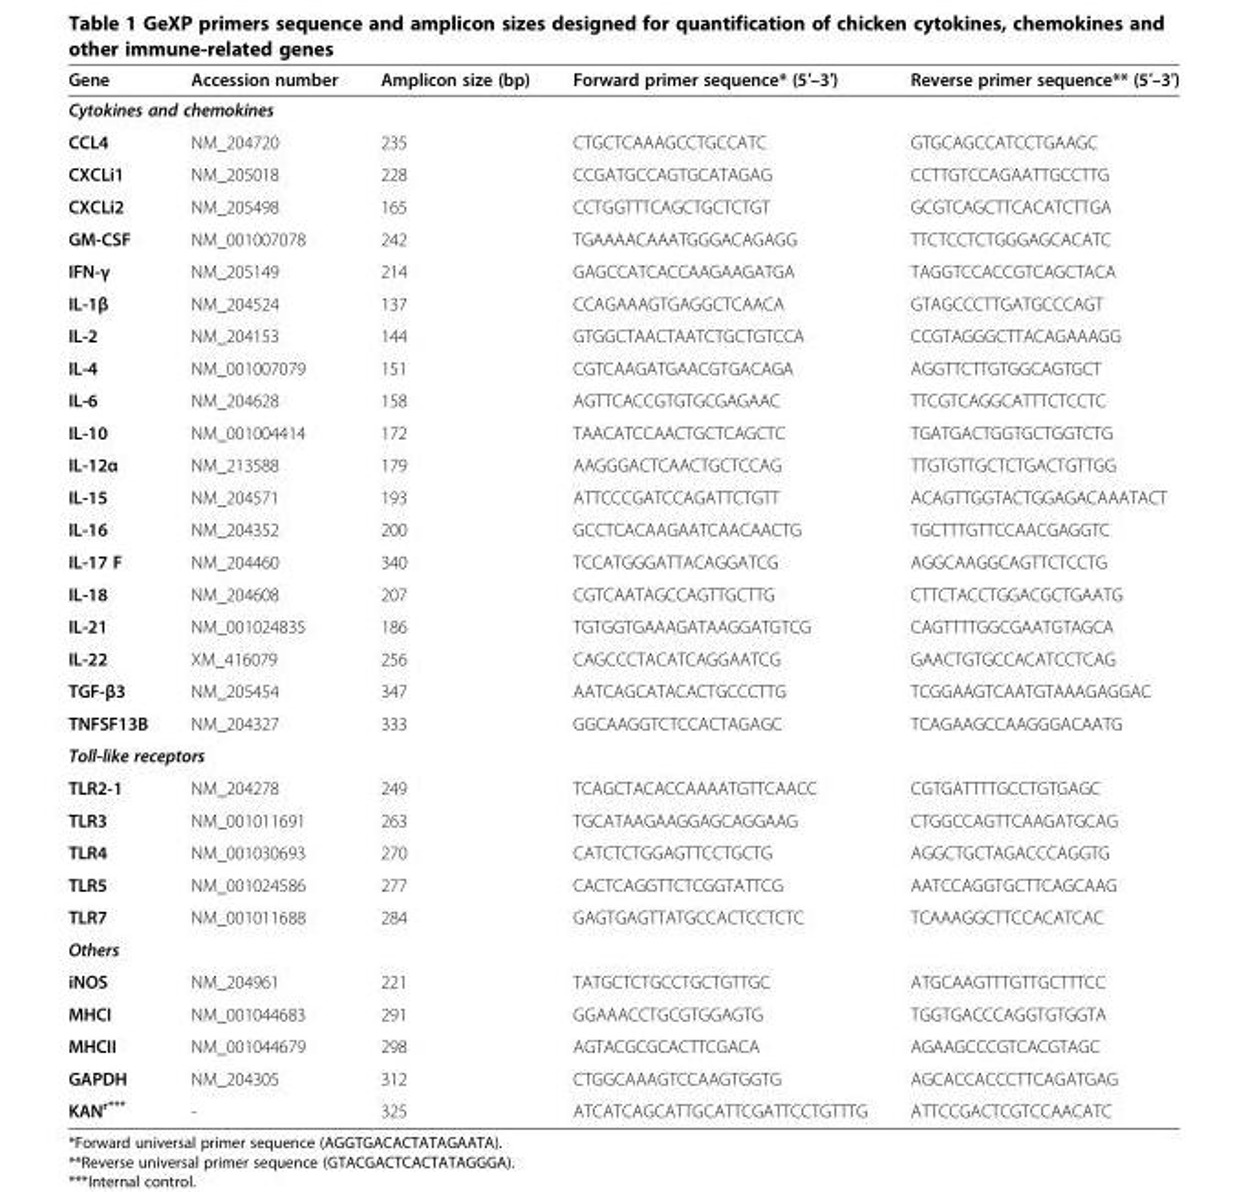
<table><thead><tr><td>Gene</td><td>Accession number</td><td>Amplicon size (bp)</td><td>Forward primer sequence* (5′–3′)</td><td>Reverse primer sequence** (5′–3′)</td></tr></thead><tbody><tr><td colspan="5">Cytokines and chemokines</td></tr><tr><td>CCL4</td><td>NM_204720</td><td>235</td><td>CTGCTCAAAGCCTGCCATC</td><td>GTGCAGCCATCCTGAAGC</td></tr><tr><td>CXCLi1</td><td>NM_205018</td><td>228</td><td>CCGATGCCAGTGCATAGAG</td><td>CCTTGTCCAGAATTGCCTTG</td></tr><tr><td>CXCLi2</td><td>NM_205498</td><td>165</td><td>CCTGGTTTCAGCTGCTCTGT</td><td>GCGTCAGCTTCACATCTTGA</td></tr><tr><td>GM-CSF</td><td>NM_001007078</td><td>242</td><td>TGAAAACAAATGGGACAGAGG</td><td>TTCTCCTCTGGGAGCACATC</td></tr><tr><td>IFN-γ</td><td>NM_205149</td><td>214</td><td>GAGCCATCACCAAGAAGATGA</td><td>TAGGTCCACCGTCAGCTACA</td></tr><tr><td>IL-1β</td><td>NM_204524</td><td>137</td><td>CCAGAAAGTGAGGCTCAACA</td><td>GTAGCCCTTGATGCCCAGT</td></tr><tr><td>IL-2</td><td>NM_204153</td><td>144</td><td>GTGGCTAACTAATCTGCTGTCCA</td><td>CCGTAGGGCTTACAGAAAGG</td></tr><tr><td>IL-4</td><td>NM_001007079</td><td>151</td><td>CGTCAAGATGAACGTGACAGA</td><td>AGGTTCTTGTGGCAGTGCT</td></tr><tr><td>IL-6</td><td>NM_204628</td><td>158</td><td>AGTTCACCGTGTGCGAGAAC</td><td>TTCGTCAGGCATTTCTCCTC</td></tr><tr><td>IL-10</td><td>NM_001004414</td><td>172</td><td>TAACATCCAACTGCTCAGCTC</td><td>TGATGACTGGTGCTGGTCTG</td></tr><tr><td>IL-12α</td><td>NM_213588</td><td>179</td><td>AAGGGACTCAACTGCTCCAG</td><td>TTGTGTTGCTCTGACTGTTGG</td></tr><tr><td>IL-15</td><td>NM_204571</td><td>193</td><td>ATTCCCGATCCAGATTCTGTT</td><td>ACAGTTGGTACTGGAGACAAATACT</td></tr><tr><td>IL-16</td><td>NM_204352</td><td>200</td><td>GCCTCACAAGAATCAACAACTG</td><td>TGCTTTGTTCCAACGAGGTC</td></tr><tr><td>IL-17 F</td><td>NM_204460</td><td>340</td><td>TCCATGGGATTACAGGATCG</td><td>AGGCAAGGCAGTTCTCCTG</td></tr><tr><td>IL-18</td><td>NM_204608</td><td>207</td><td>CGTCAATAGCCAGTTGCTTG</td><td>CTTCTACCTGGACGCTGAATG</td></tr><tr><td>IL-21</td><td>NM_001024835</td><td>186</td><td>TGTGGTGAAAGATAAGGATGTCG</td><td>CAGTTTTGGCGAATGTAGCA</td></tr><tr><td>IL-22</td><td>XM_416079</td><td>256</td><td>CAGCCCTACATCAGGAATCG</td><td>GAACTGTGCCACATCCTCAG</td></tr><tr><td>TGF-β3</td><td>NM_205454</td><td>347</td><td>AATCAGCATACACTGCCCTTG</td><td>TCGGAAGTCAATGTAAAGAGGAC</td></tr><tr><td>TNFSF13B</td><td>NM_204327</td><td>333</td><td>GGCAAGGTCTCCACTAGAGC</td><td>TCAGAAGCCAAGGGACAATG</td></tr><tr><td colspan="5">Toll-like receptors</td></tr><tr><td>TLR2-1</td><td>NM_204278</td><td>249</td><td>TCAGCTACACCAAAATGTTCAACC</td><td>CGTGATTTTGCCTGTGAGC</td></tr><tr><td>TLR3</td><td>NM_001011691</td><td>263</td><td>TGCATAAGAAGGAGCAGGAAG</td><td>CTGGCCAGTTCAAGATGCAG</td></tr><tr><td>TLR4</td><td>NM_001030693</td><td>270</td><td>CATCTCTGGAGTTCCTGCTG</td><td>AGGCTGCTAGACCCAGGTG</td></tr><tr><td>TLR5</td><td>NM_001024586</td><td>277</td><td>CACTCAGGTTCTCGGTATTCG</td><td>AATCCAGGTGCTTCAGCAAG</td></tr><tr><td>TLR7</td><td>NM_001011688</td><td>284</td><td>GAGTGAGTTATGCCACTCCTCTC</td><td>TCAAAGGCTTCCACATCAC</td></tr><tr><td colspan="5">Others</td></tr><tr><td>iNOS</td><td>NM_204961</td><td>221</td><td>TATGCTCTGCCTGCTGTTGC</td><td>ATGCAAGTTTGTTGCTTTCC</td></tr><tr><td>MHCI</td><td>NM_001044683</td><td>291</td><td>GGAAACCTGCGTGGAGTG</td><td>TGGTGACCCAGGTGTGGTA</td></tr><tr><td>MHCII</td><td>NM_001044679</td><td>298</td><td>AGTACGCGCACTTCGACA</td><td>AGAAGCCCGTCACGTAGC</td></tr><tr><td>GAPDH</td><td>NM_204305</td><td>312</td><td>CTGGCAAAGTCCAAGTGGTG</td><td>AGCACCACCCTTCAGATGAG</td></tr><tr><td>KAN<sup>r***</sup></td><td>-</td><td>325</td><td>ATCATCAGCATTGCATTCGATTCCTGTTTG</td><td>ATTCCGACTCGTCCAACATC</td></tr></tbody></table>